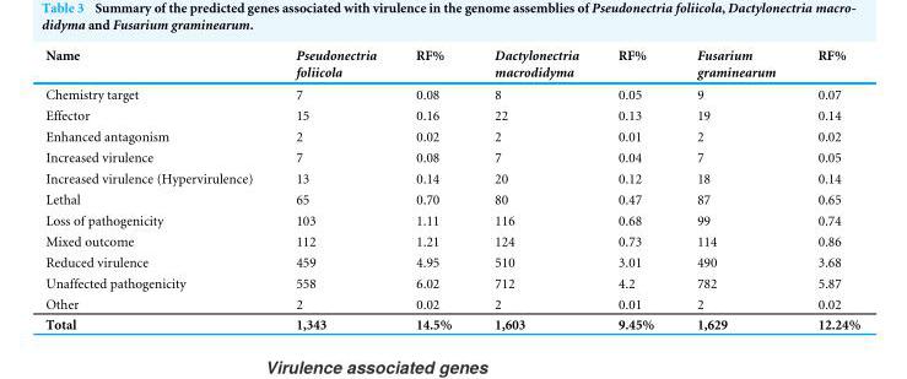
<table><thead><tr><td>Name</td><td>Pseudonectria foliicola</td><td>RF%</td><td>Dactylonectria macrodidyma</td><td>RF%</td><td>Fusarium graminearum</td><td>RF%</td></tr></thead><tbody><tr><td>Chemistry target</td><td>7</td><td>0.08</td><td>8</td><td>0.05</td><td>9</td><td>0.07</td></tr><tr><td>Effector</td><td>15</td><td>0.16</td><td>22</td><td>0.13</td><td>19</td><td>0.14</td></tr><tr><td>Enhanced antagonism</td><td>2</td><td>0.02</td><td>2</td><td>0.01</td><td>2</td><td>0.02</td></tr><tr><td>Increased virulence</td><td>7</td><td>0.08</td><td>7</td><td>0.04</td><td>7</td><td>0.05</td></tr><tr><td>Increased virulence (Hypervirulence)</td><td>13</td><td>0.14</td><td>20</td><td>0.12</td><td>18</td><td>0.14</td></tr><tr><td>Lethal</td><td>65</td><td>0.70</td><td>80</td><td>0.47</td><td>87</td><td>0.65</td></tr><tr><td>Loss of pathogenicity</td><td>103</td><td>1.11</td><td>116</td><td>0.68</td><td>99</td><td>0.74</td></tr><tr><td>Mixed outcome</td><td>112</td><td>1.21</td><td>124</td><td>0.73</td><td>114</td><td>0.86</td></tr><tr><td>Reduced virulence</td><td>459</td><td>4.95</td><td>510</td><td>3.01</td><td>490</td><td>3.68</td></tr><tr><td>Unaffected pathogenicity</td><td>558</td><td>6.02</td><td>712</td><td>4.2</td><td>782</td><td>5.87</td></tr><tr><td>Other</td><td>2</td><td>0.02</td><td>2</td><td>0.01</td><td>2</td><td>0.02</td></tr><tr><td>Total</td><td>1,343</td><td>14.5%</td><td>1,603</td><td>9.45%</td><td>1,629</td><td>12.24%</td></tr></tbody></table>